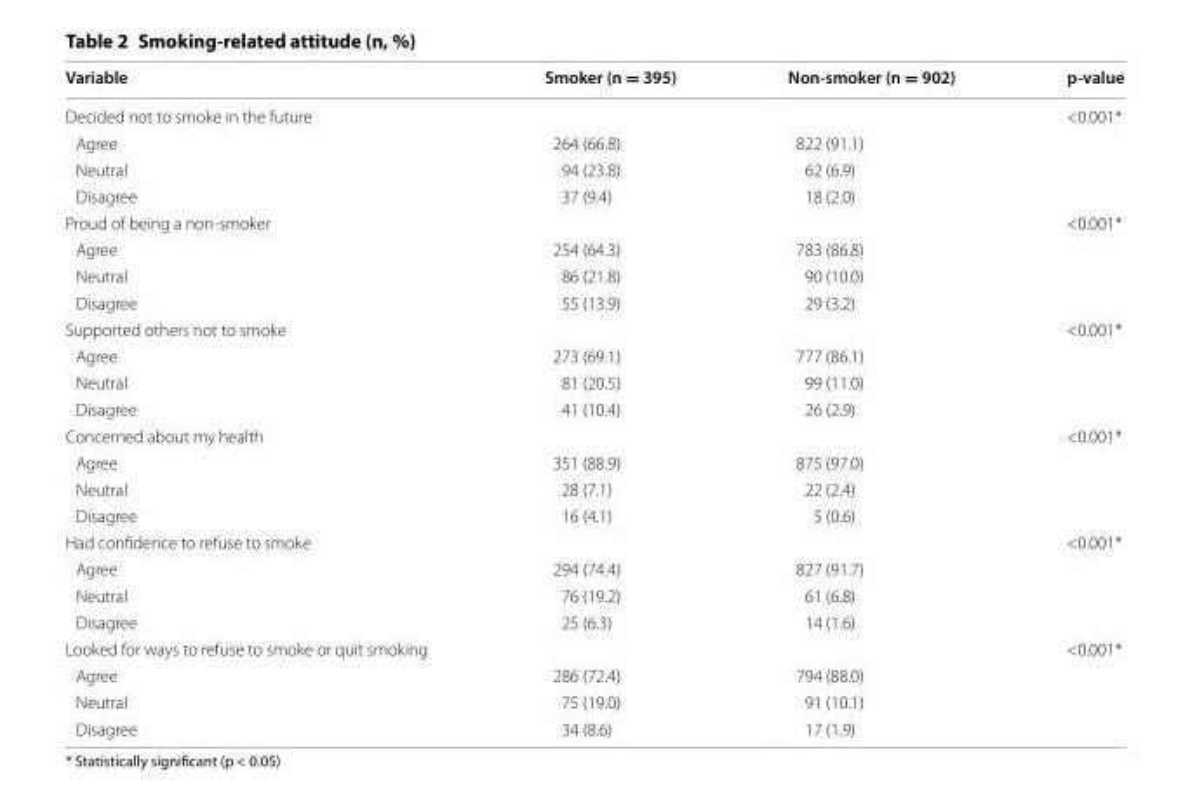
<table><thead><tr><td>Variable</td><td>Smoker (n = 395)</td><td>Non‑smoker (n = 902)</td><td>p‑value</td></tr></thead><tbody><tr><td colspan="3">Decided not to smoke in the future</td><td>&lt;0.001*</td></tr><tr><td>Agree</td><td>264 (66.8)</td><td>822 (91.1)</td><td></td></tr><tr><td>Neutral</td><td>94 (23.8)</td><td>62 (6.9)</td><td></td></tr><tr><td>Disagree</td><td>37 (9.4)</td><td>18 (2.0)</td><td></td></tr><tr><td colspan="3">Proud of being a non-smoker</td><td>&lt;0.001*</td></tr><tr><td>Agree</td><td>254 (64.3)</td><td>783 (86.8)</td><td></td></tr><tr><td>Neutral</td><td>86 (21.8)</td><td>90 (10.0)</td><td></td></tr><tr><td>Disagree</td><td>55 (13.9)</td><td>29 (3.2)</td><td></td></tr><tr><td colspan="3">Supported others not to smoke</td><td>&lt;0.001*</td></tr><tr><td>Agree</td><td>273 (69.1)</td><td>777 (86.1)</td><td></td></tr><tr><td>Neutral</td><td>81 (20.5)</td><td>99 (11.0)</td><td></td></tr><tr><td>Disagree</td><td>41 (10.4)</td><td>26 (2.9)</td><td></td></tr><tr><td colspan="3">Concerned about my health</td><td>&lt;0.001*</td></tr><tr><td>Agree</td><td>351 (88.9)</td><td>875 (97.0)</td><td></td></tr><tr><td>Neutral</td><td>28 (7.1)</td><td>22 (2.4)</td><td></td></tr><tr><td>Disagree</td><td>16 (4.1)</td><td>5 (0.6)</td><td></td></tr><tr><td colspan="3">Had confidence to refuse to smoke</td><td>&lt;0.001*</td></tr><tr><td>Agree</td><td>294 (74.4)</td><td>827 (91.7)</td><td></td></tr><tr><td>Neutral</td><td>76 (19.2)</td><td>61 (6.8)</td><td></td></tr><tr><td>Disagree</td><td>25 (6.3)</td><td>14 (1.6)</td><td></td></tr><tr><td colspan="3">Looked for ways to refuse to smoke or quit smoking</td><td>&lt;0.001*</td></tr><tr><td>Agree</td><td>286 (72.4)</td><td>794 (88.0)</td><td></td></tr><tr><td>Neutral</td><td>75 (19.0)</td><td>91 (10.1)</td><td></td></tr><tr><td>Disagree</td><td>34 (8.6)</td><td>17 (1.9)</td><td></td></tr></tbody></table>